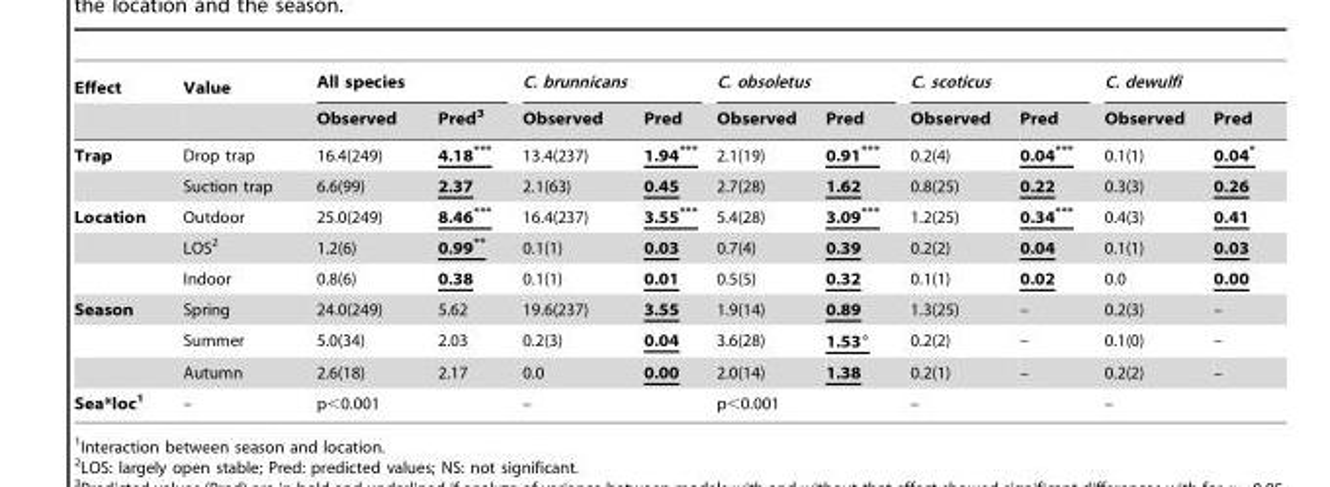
<table><thead><tr><td rowspan="2">Effect</td><td rowspan="2">Value</td><td colspan="2">All species</td><td colspan="2">C. brunnicans</td><td colspan="2">C. obsoletus</td><td colspan="2">C. scoticus</td><td colspan="2">C. dewulfi</td></tr><tr><td>Observed</td><td>Pred<sup>3</sup></td><td>Observed</td><td>Pred</td><td>Observed</td><td>Pred</td><td>Observed</td><td>Pred</td><td>Observed</td><td>Pred</td></tr></thead><tbody><tr><td rowspan="2">Trap</td><td>Drop trap</td><td>16.4(249)</td><td>4.18***</td><td>13.4(237)</td><td>1.94***</td><td>2.1(19)</td><td>0.91***</td><td>0.2(4)</td><td>0.04***</td><td>0.1(1)</td><td>0.04*</td></tr><tr><td>Suction trap</td><td>6.6(99)</td><td>2.37</td><td>2.1(63)</td><td>0.45</td><td>2.7(28)</td><td>1.62</td><td>0.8(25)</td><td>0.22</td><td>0.3(3)</td><td>0.26</td></tr><tr><td rowspan="3">Location</td><td>Outdoor</td><td>25.0(249)</td><td>8.46***</td><td>16.4(237)</td><td>3.55***</td><td>5.4(28)</td><td>3.09***</td><td>1.2(25)</td><td>0.34***</td><td>0.4(3)</td><td>0.41</td></tr><tr><td>LOS<sup>2</sup></td><td>1.2(6)</td><td>0.99**</td><td>0.1(1)</td><td>0.03</td><td>0.7(4)</td><td>0.39</td><td>0.2(2)</td><td>0.04</td><td>0.1(1)</td><td>0.03</td></tr><tr><td>Indoor</td><td>0.8(6)</td><td>0.38</td><td>0.1(1)</td><td>0.01</td><td>0.5(5)</td><td>0.32</td><td>0.1(1)</td><td>0.02</td><td>0.0</td><td>0.00</td></tr><tr><td rowspan="3">Season</td><td>Spring</td><td>24.0(249)</td><td>5.62</td><td>19.6(237)</td><td>3.55</td><td>1.9(14)</td><td>0.89</td><td>1.3(25)</td><td>–</td><td>0.2(3)</td><td>–</td></tr><tr><td>Summer</td><td>5.0(34)</td><td>2.03</td><td>0.2(3)</td><td>0.04</td><td>3.6(28)</td><td>1.53°</td><td>0.2(2)</td><td>–</td><td>0.1(0)</td><td>–</td></tr><tr><td>Autumn</td><td>2.6(18)</td><td>2.17</td><td>0.0</td><td>0.00</td><td>2.0(14)</td><td>1.38</td><td>0.2(1)</td><td>–</td><td>0.2(2)</td><td>–</td></tr><tr><td>Sea*loc1</td><td>–</td><td colspan="2">p&lt;0.001</td><td colspan="2">–</td><td colspan="2">p&lt;0.001</td><td colspan="2">–</td><td colspan="2">–</td></tr></tbody></table>